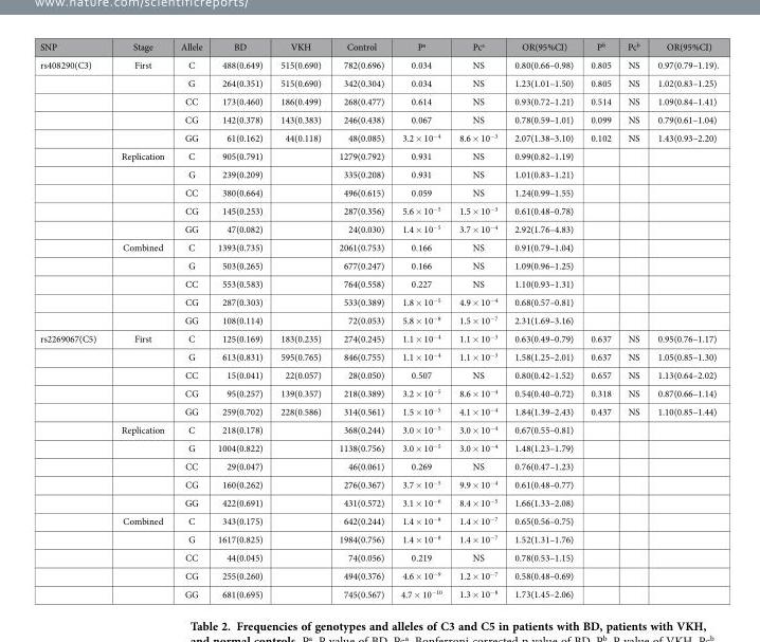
<table><thead><tr><td>SNP</td><td>Stage</td><td>Allele</td><td>BD</td><td>VKH</td><td>Control</td><td>P<sup>a</sup></td><td>Pc<sup>a</sup></td><td>OR(95%CI)</td><td>P<sup>b</sup></td><td>Pc<sup>b</sup></td><td>OR(95%CI)</td></tr></thead><tbody><tr><td rowspan="15">rs408290(C3)</td><td>First</td><td>C</td><td>488(0.649)</td><td>515(0.690)</td><td>782(0.696)</td><td>0.034</td><td>NS</td><td>0.80(0.66–0.98)</td><td>0.805</td><td>NS</td><td>0.97(0.79–1.19).</td></tr><tr><td></td><td>G</td><td>264(0.351)</td><td>515(0.690)</td><td>342(0.304)</td><td>0.034</td><td>NS</td><td>1.23(1.01–1.50)</td><td>0.805</td><td>NS</td><td>1.02(0.83–1.25)</td></tr><tr><td></td><td>CC</td><td>173(0.460)</td><td>186(0.499)</td><td>268(0.477)</td><td>0.614</td><td>NS</td><td>0.93(0.72–1.21)</td><td>0.514</td><td>NS</td><td>1.09(0.84–1.41)</td></tr><tr><td></td><td>CG</td><td>142(0.378)</td><td>143(0.383)</td><td>246(0.438)</td><td>0.067</td><td>NS</td><td>0.78(0.59–1.01)</td><td>0.099</td><td>NS</td><td>0.79(0.61–1.04)</td></tr><tr><td></td><td>GG</td><td>61(0.162)</td><td>44(0.118)</td><td>48(0.085)</td><td>3.2 × 10<sup>−4</sup></td><td>8.6 × 10<sup>−3</sup></td><td>2.07(1.38–3.10)</td><td>0.102</td><td>NS</td><td>1.43(0.93–2.20)</td></tr><tr><td>Replication</td><td>C</td><td>905(0.791)</td><td></td><td>1279(0.792)</td><td>0.931</td><td>NS</td><td>0.99(0.82–1.19)</td><td></td><td></td><td></td></tr><tr><td></td><td>G</td><td>239(0.209)</td><td></td><td>335(0.208)</td><td>0.931</td><td>NS</td><td>1.01(0.83–1.21)</td><td></td><td></td><td></td></tr><tr><td></td><td>CC</td><td>380(0.664)</td><td></td><td>496(0.615)</td><td>0.059</td><td>NS</td><td>1.24(0.99–1.55)</td><td></td><td></td><td></td></tr><tr><td></td><td>CG</td><td>145(0.253)</td><td></td><td>287(0.356)</td><td>5.6 × 10<sup>−5</sup></td><td>1.5 × 10<sup>−3</sup></td><td>0.61(0.48–0.78)</td><td></td><td></td><td></td></tr><tr><td></td><td>GG</td><td>47(0.082)</td><td></td><td>24(0.030)</td><td>1.4 × 10<sup>−5</sup></td><td>3.7 × 10<sup>−4</sup></td><td>2.92(1.76–4.83)</td><td></td><td></td><td></td></tr><tr><td>Combined</td><td>C</td><td>1393(0.735)</td><td></td><td>2061(0.753)</td><td>0.166</td><td>NS</td><td>0.91(0.79–1.04)</td><td></td><td></td><td></td></tr><tr><td></td><td>G</td><td>503(0.265)</td><td></td><td>677(0.247)</td><td>0.166</td><td>NS</td><td>1.09(0.96–1.25)</td><td></td><td></td><td></td></tr><tr><td></td><td>CC</td><td>553(0.583)</td><td></td><td>764(0.558)</td><td>0.227</td><td>NS</td><td>1.10(0.93–1.31)</td><td></td><td></td><td></td></tr><tr><td></td><td>CG</td><td>287(0.303)</td><td></td><td>533(0.389)</td><td>1.8 × 10<sup>−5</sup></td><td>4.9 × 10<sup>−4</sup></td><td>0.68(0.57–0.81)</td><td></td><td></td><td></td></tr><tr><td></td><td>GG</td><td>108(0.114)</td><td></td><td>72(0.053)</td><td>5.8 × 10<sup>−8</sup></td><td>1.5 × 10<sup>−7</sup></td><td>2.31(1.69–3.16)</td><td></td><td></td><td></td></tr><tr><td rowspan="15">rs2269067(C5)</td><td>First</td><td>C</td><td>125(0.169)</td><td>183(0.235)</td><td>274(0.245)</td><td>1.1 × 10<sup>−4</sup></td><td>1.1 × 10<sup>−3</sup></td><td>0.63(0.49–0.79)</td><td>0.637</td><td>NS</td><td>0.95(0.76–1.17)</td></tr><tr><td></td><td>G</td><td>613(0.831)</td><td>595(0.765)</td><td>846(0.755)</td><td>1.1 × 10<sup>−4</sup></td><td>1.1 × 10<sup>−3</sup></td><td>1.58(1.25–2.01)</td><td>0.637</td><td>NS</td><td>1.05(0.85–1.30)</td></tr><tr><td></td><td>CC</td><td>15(0.041)</td><td>22(0.057)</td><td>28(0.050)</td><td>0.507</td><td>NS</td><td>0.80(0.42–1.52)</td><td>0.657</td><td>NS</td><td>1.13(0.64–2.02)</td></tr><tr><td></td><td>CG</td><td>95(0.257)</td><td>139(0.357)</td><td>218(0.389)</td><td>3.2 × 10<sup>−5</sup></td><td>8.6 × 10<sup>−4</sup></td><td>0.54(0.40–0.72)</td><td>0.318</td><td>NS</td><td>0.87(0.66–1.14)</td></tr><tr><td></td><td>GG</td><td>259(0.702)</td><td>228(0.586)</td><td>314(0.561)</td><td>1.5 × 10<sup>−5</sup></td><td>4.1 × 10<sup>−4</sup></td><td>1.84(1.39–2.43)</td><td>0.437</td><td>NS</td><td>1.10(0.85–1.44)</td></tr><tr><td>Replication</td><td>C</td><td>218(0.178)</td><td></td><td>368(0.244)</td><td>3.0 × 10<sup>−5</sup></td><td>3.0 × 10<sup>−4</sup></td><td>0.67(0.55–0.81)</td><td></td><td></td><td></td></tr><tr><td></td><td>G</td><td>1004(0.822)</td><td></td><td>1138(0.756)</td><td>3.0 × 10<sup>−5</sup></td><td>3.0 × 10<sup>−4</sup></td><td>1.48(1.23–1.79)</td><td></td><td></td><td></td></tr><tr><td></td><td>CC</td><td>29(0.047)</td><td></td><td>46(0.061)</td><td>0.269</td><td>NS</td><td>0.76(0.47–1.23)</td><td></td><td></td><td></td></tr><tr><td></td><td>CG</td><td>160(0.262)</td><td></td><td>276(0.367)</td><td>3.7 × 10<sup>−5</sup></td><td>9.9 × 10<sup>−4</sup></td><td>0.61(0.48–0.77)</td><td></td><td></td><td></td></tr><tr><td></td><td>GG</td><td>422(0.691)</td><td></td><td>431(0.572)</td><td>3.1 × 10<sup>−6</sup></td><td>8.4 × 10<sup>−5</sup></td><td>1.66(1.33–2.08)</td><td></td><td></td><td></td></tr><tr><td>Combined</td><td>C</td><td>343(0.175)</td><td></td><td>642(0.244)</td><td>1.4 × 10<sup>−8</sup></td><td>1.4 × 10<sup>−7</sup></td><td>0.65(0.56–0.75)</td><td></td><td></td><td></td></tr><tr><td></td><td>G</td><td>1617(0.825)</td><td></td><td>1984(0.756)</td><td>1.4 × 10<sup>−8</sup></td><td>1.4 × 10<sup>−7</sup></td><td>1.52(1.31–1.76)</td><td></td><td></td><td></td></tr><tr><td></td><td>CC</td><td>44(0.045)</td><td></td><td>74(0.056)</td><td>0.219</td><td>NS</td><td>0.78(0.53–1.15)</td><td></td><td></td><td></td></tr><tr><td></td><td>CG</td><td>255(0.260)</td><td></td><td>494(0.376)</td><td>4.6 × 10<sup>−9</sup></td><td>1.2 × 10<sup>−7</sup></td><td>0.58(0.48–0.69)</td><td></td><td></td><td></td></tr><tr><td></td><td>GG</td><td>681(0.695)</td><td></td><td>745(0.567)</td><td>4.7 × 10<sup>−10</sup></td><td>1.3 × 10<sup>−8</sup></td><td>1.73(1.45–2.06)</td><td></td><td></td><td></td></tr></tbody></table>